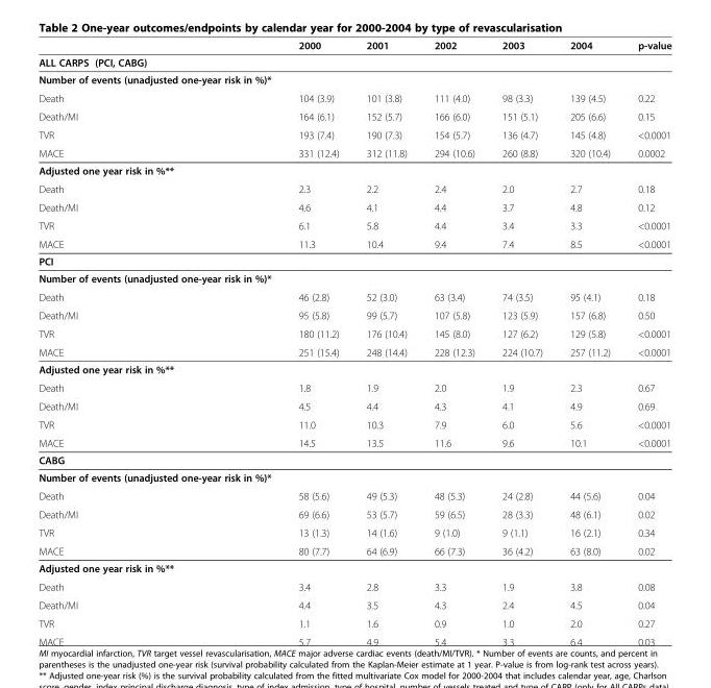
<table><thead><tr><td></td><td>2000</td><td>2001</td><td>2002</td><td>2003</td><td>2004</td><td>p-value</td></tr></thead><tbody><tr><td colspan="7">ALL CARPS (PCI, CABG)</td></tr><tr><td colspan="7">Number of events (unadjusted one-year risk in %)*</td></tr><tr><td>Death</td><td>104 (3.9)</td><td>101 (3.8)</td><td>111 (4.0)</td><td>98 (3.3)</td><td>139 (4.5)</td><td>0.22</td></tr><tr><td>Death/MI</td><td>164 (6.1)</td><td>152 (5.7)</td><td>166 (6.0)</td><td>151 (5.1)</td><td>205 (6.6)</td><td>0.15</td></tr><tr><td>TVR</td><td>193 (7.4)</td><td>190 (7.3)</td><td>154 (5.7)</td><td>136 (4.7)</td><td>145 (4.8)</td><td>&lt;0.0001</td></tr><tr><td>MACE</td><td>331 (12.4)</td><td>312 (11.8)</td><td>294 (10.6)</td><td>260 (8.8)</td><td>320 (10.4)</td><td>0.0002</td></tr><tr><td colspan="7">Adjusted one year risk in %**</td></tr><tr><td>Death</td><td>2.3</td><td>2.2</td><td>2.4</td><td>2.0</td><td>2.7</td><td>0.18</td></tr><tr><td>Death/MI</td><td>4.6</td><td>4.1</td><td>4.4</td><td>3.7</td><td>4.8</td><td>0.12</td></tr><tr><td>TVR</td><td>6.1</td><td>5.8</td><td>4.4</td><td>3.4</td><td>3.3</td><td>&lt;0.0001</td></tr><tr><td>MACE</td><td>11.3</td><td>10.4</td><td>9.4</td><td>7.4</td><td>8.5</td><td>&lt;0.0001</td></tr><tr><td colspan="7">PCI</td></tr><tr><td colspan="7">Number of events (unadjusted one-year risk in %)*</td></tr><tr><td>Death</td><td>46 (2.8)</td><td>52 (3.0)</td><td>63 (3.4)</td><td>74 (3.5)</td><td>95 (4.1)</td><td>0.18</td></tr><tr><td>Death/MI</td><td>95 (5.8)</td><td>99 (5.7)</td><td>107 (5.8)</td><td>123 (5.9)</td><td>157 (6.8)</td><td>0.50</td></tr><tr><td>TVR</td><td>180 (11.2)</td><td>176 (10.4)</td><td>145 (8.0)</td><td>127 (6.2)</td><td>129 (5.8)</td><td>&lt;0.0001</td></tr><tr><td>MACE</td><td>251 (15.4)</td><td>248 (14.4)</td><td>228 (12.3)</td><td>224 (10.7)</td><td>257 (11.2)</td><td>&lt;0.0001</td></tr><tr><td colspan="7">Adjusted one year risk in %**</td></tr><tr><td>Death</td><td>1.8</td><td>1.9</td><td>2.0</td><td>1.9</td><td>2.3</td><td>0.67</td></tr><tr><td>Death/MI</td><td>4.5</td><td>4.4</td><td>4.3</td><td>4.1</td><td>4.9</td><td>0.69</td></tr><tr><td>TVR</td><td>11.0</td><td>10.3</td><td>7.9</td><td>6.0</td><td>5.6</td><td>&lt;0.0001</td></tr><tr><td>MACE</td><td>14.5</td><td>13.5</td><td>11.6</td><td>9.6</td><td>10.1</td><td>&lt;0.0001</td></tr><tr><td colspan="7">CABG</td></tr><tr><td colspan="7">Number of events (unadjusted one-year risk in %)*</td></tr><tr><td>Death</td><td>58 (5.6)</td><td>49 (5.3)</td><td>48 (5.3)</td><td>24 (2.8)</td><td>44 (5.6)</td><td>0.04</td></tr><tr><td>Death/MI</td><td>69 (6.6)</td><td>53 (5.7)</td><td>59 (6.5)</td><td>28 (3.3)</td><td>48 (6.1)</td><td>0.02</td></tr><tr><td>TVR</td><td>13 (1.3)</td><td>14 (1.6)</td><td>9 (1.0)</td><td>9 (1.1)</td><td>16 (2.1)</td><td>0.34</td></tr><tr><td>MACE</td><td>80 (7.7)</td><td>64 (6.9)</td><td>66 (7.3)</td><td>36 (4.2)</td><td>63 (8.0)</td><td>0.02</td></tr><tr><td colspan="7">Adjusted one year risk in %**</td></tr><tr><td>Death</td><td>3.4</td><td>2.8</td><td>3.3</td><td>1.9</td><td>3.8</td><td>0.08</td></tr><tr><td>Death/MI</td><td>4.4</td><td>3.5</td><td>4.3</td><td>2.4</td><td>4.5</td><td>0.04</td></tr><tr><td>TVR</td><td>1.1</td><td>1.6</td><td>0.9</td><td>1.0</td><td>2.0</td><td>0.27</td></tr><tr><td>MACE</td><td>5.7</td><td>4.9</td><td>5.4</td><td>3.3</td><td>6.4</td><td>0.03</td></tr></tbody></table>